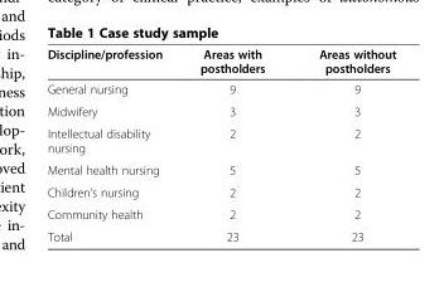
<table><thead><tr><td>Discipline/profession</td><td>Areas with postholders</td><td>Areas without postholders</td></tr></thead><tbody><tr><td>General nursing</td><td>9</td><td>9</td></tr><tr><td>Midwifery</td><td>3</td><td>3</td></tr><tr><td>Intellectual disability nursing</td><td>2</td><td>2</td></tr><tr><td>Mental health nursing</td><td>5</td><td>5</td></tr><tr><td>Children’s nursing</td><td>2</td><td>2</td></tr><tr><td>Community health</td><td>2</td><td>2</td></tr><tr><td>Total</td><td>23</td><td>23</td></tr></tbody></table>